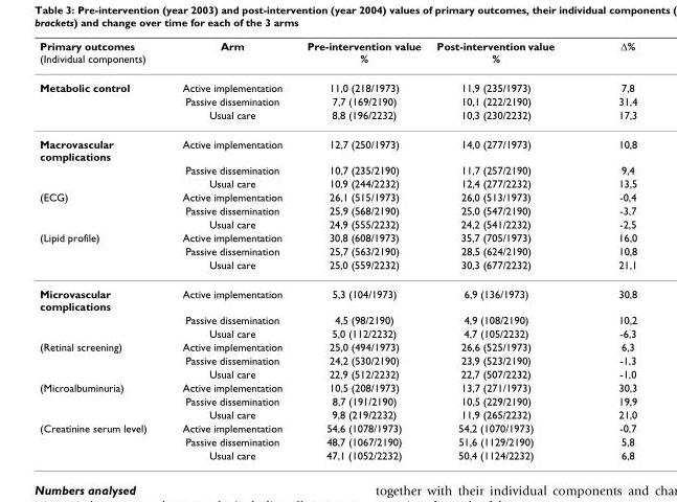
<table><thead><tr><td>Primary outcomes (Individual components)</td><td>Arm</td><td>Pre-intervention value %</td><td>Post-intervention value %</td><td>Δ%</td></tr></thead><tbody><tr><td rowspan="3">Metabolic control</td><td>Active implementation</td><td>11,0 (218/1973)</td><td>11,9 (235/1973)</td><td>7,8</td></tr><tr><td>Passive dissemination</td><td>7,7 (169/2190)</td><td>10,1 (222/2190)</td><td>31,4</td></tr><tr><td>Usual care</td><td>8,8 (196/2232)</td><td>10,3 (230/2232)</td><td>17,3</td></tr><tr><td rowspan="3">Macrovascular complications</td><td>Active implementation</td><td>12,7 (250/1973)</td><td>14,0 (277/1973)</td><td>10,8</td></tr><tr><td>Passive dissemination</td><td>10,7 (235/2190)</td><td>11,7 (257/2190)</td><td>9,4</td></tr><tr><td>Usual care</td><td>10,9 (244/2232)</td><td>12,4 (277/2232)</td><td>13,5</td></tr><tr><td rowspan="3">(ECG)</td><td>Active implementation</td><td>26,1 (515/1973)</td><td>26,0 (513/1973)</td><td>-0,4</td></tr><tr><td>Passive dissemination</td><td>25,9 (568/2190)</td><td>25,0 (547/2190)</td><td>-3,7</td></tr><tr><td>Usual care</td><td>24,9 (555/2232)</td><td>24,2 (541/2232)</td><td>-2,5</td></tr><tr><td rowspan="3">(Lipid profile)</td><td>Active implementation</td><td>30,8 (608/1973)</td><td>35,7 (705/1973)</td><td>16,0</td></tr><tr><td>Passive dissemination</td><td>25,7 (563/2190)</td><td>28,5 (624/2190)</td><td>10,8</td></tr><tr><td>Usual care</td><td>25,0 (559/2232)</td><td>30,3 (677/2232)</td><td>21,1</td></tr><tr><td rowspan="3">Microvascular complications</td><td>Active implementation</td><td>5,3 (104/1973)</td><td>6,9 (136/1973)</td><td>30,8</td></tr><tr><td>Passive dissemination</td><td>4,5 (98/2190)</td><td>4,9 (108/2190)</td><td>10,2</td></tr><tr><td>Usual care</td><td>5,0 (112/2232)</td><td>4,7 (105/2232)</td><td>-6,3</td></tr><tr><td rowspan="3">(Retinal screening)</td><td>Active implementation</td><td>25,0 (494/1973)</td><td>26,6 (525/1973)</td><td>6,3</td></tr><tr><td>Passive dissemination</td><td>24,2 (530/2190)</td><td>23,9 (523/2190)</td><td>-1,3</td></tr><tr><td>Usual care</td><td>22,9 (512/2232)</td><td>22,7 (507/2232)</td><td>-1,0</td></tr><tr><td rowspan="3">(Microalbuminuria)</td><td>Active implementation</td><td>10,5 (208/1973)</td><td>13,7 (271/1973)</td><td>30,3</td></tr><tr><td>Passive dissemination</td><td>8,7 (191/2190)</td><td>10,5 (229/2190)</td><td>19,9</td></tr><tr><td>Usual care</td><td>9,8 (219/2232)</td><td>11,9 (265/2232)</td><td>21,0</td></tr><tr><td rowspan="3">(Creatinine serum level)</td><td>Active implementation</td><td>54,6 (1078/1973)</td><td>54,2 (1070/1973)</td><td>-0,7</td></tr><tr><td>Passive dissemination</td><td>48,7 (1067/2190)</td><td>51,6 (1129/2190)</td><td>5,8</td></tr><tr><td>Usual care</td><td>47,1 (1052/2232)</td><td>50,4 (1124/2232)</td><td>6,8</td></tr></tbody></table>